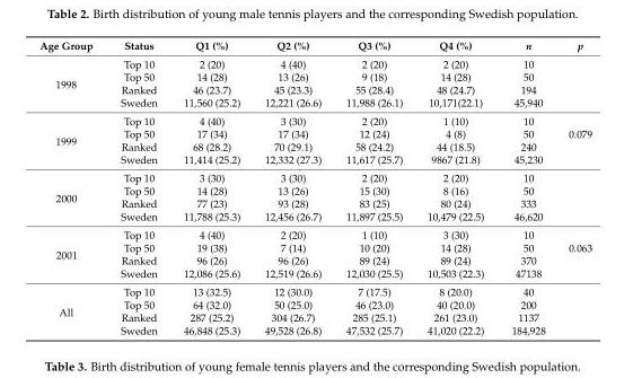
<table><thead><tr><td>Age Group</td><td>Status</td><td>Q1 (%)</td><td>Q2 (%)</td><td>Q3 (%)</td><td>Q4 (%)</td><td>n</td><td>p</td></tr></thead><tbody><tr><td rowspan="4">1998</td><td>Top 10</td><td>2 (20)</td><td>4 (40)</td><td>2 (20)</td><td>2 (20)</td><td>10</td><td></td></tr><tr><td>Top 50</td><td>14 (28)</td><td>13 (26)</td><td>9 (18)</td><td>14 (28)</td><td>50</td><td></td></tr><tr><td>Ranked</td><td>46 (23.7)</td><td>45 (23.3)</td><td>55 (28.4)</td><td>48 (24.7)</td><td>194</td><td></td></tr><tr><td>Sweden</td><td>11,560 (25.2)</td><td>12,221 (26.6)</td><td>11,988 (26.1)</td><td>10,171(22.1)</td><td>45,940</td><td></td></tr><tr><td rowspan="4">1999</td><td>Top 10</td><td>4 (40)</td><td>3 (30)</td><td>2 (20)</td><td>1 (10)</td><td>10</td><td></td></tr><tr><td>Top 50</td><td>17 (34)</td><td>17 (34)</td><td>12 (24)</td><td>4 (8)</td><td>50</td><td>0.079</td></tr><tr><td>Ranked</td><td>68 (28.2)</td><td>70 (29.1)</td><td>58 (24.2)</td><td>44 (18.5)</td><td>240</td><td></td></tr><tr><td>Sweden</td><td>11,414 (25.2)</td><td>12,332 (27.3)</td><td>11,617 (25.7)</td><td>9867 (21.8)</td><td>45,230</td><td></td></tr><tr><td rowspan="4">2000</td><td>Top 10</td><td>3 (30)</td><td>3 (30)</td><td>2 (20)</td><td>2 (20)</td><td>10</td><td></td></tr><tr><td>Top 50</td><td>14 (28)</td><td>13 (26)</td><td>15 (30)</td><td>8 (16)</td><td>50</td><td></td></tr><tr><td>Ranked</td><td>77 (23)</td><td>93 (28)</td><td>83 (25)</td><td>80 (24)</td><td>333</td><td></td></tr><tr><td>Sweden</td><td>11,788 (25.3)</td><td>12,456 (26.7)</td><td>11,897 (25.5)</td><td>10,479 (22.5)</td><td>46,620</td><td></td></tr><tr><td rowspan="4">2001</td><td>Top 10</td><td>4 (40)</td><td>2 (20)</td><td>1 (10)</td><td>3 (30)</td><td>10</td><td></td></tr><tr><td>Top 50</td><td>19 (38)</td><td>7 (14)</td><td>10 (20)</td><td>14 (28)</td><td>50</td><td>0.063</td></tr><tr><td>Ranked</td><td>96 (26)</td><td>96 (26)</td><td>89 (24)</td><td>89 (24)</td><td>370</td><td></td></tr><tr><td>Sweden</td><td>12,086 (25.6)</td><td>12,519 (26.6)</td><td>12,030 (25.5)</td><td>10,503 (22.3)</td><td>47138</td><td></td></tr><tr><td rowspan="4">All</td><td>Top 10</td><td>13 (32.5)</td><td>12 (30.0)</td><td>7 (17.5)</td><td>8 (20.0)</td><td>40</td><td></td></tr><tr><td>Top 50</td><td>64 (32.0)</td><td>50 (25.0)</td><td>46 (23.0)</td><td>40 (20.0)</td><td>200</td><td></td></tr><tr><td>Ranked</td><td>287 (25.2)</td><td>304 (26.7)</td><td>285 (25.1)</td><td>261 (23.0)</td><td>1137</td><td></td></tr><tr><td>Sweden</td><td>46,848 (25.3)</td><td>49,528 (26.8)</td><td>47,532 (25.7)</td><td>41,020 (22.2)</td><td>184,928</td><td></td></tr></tbody></table>